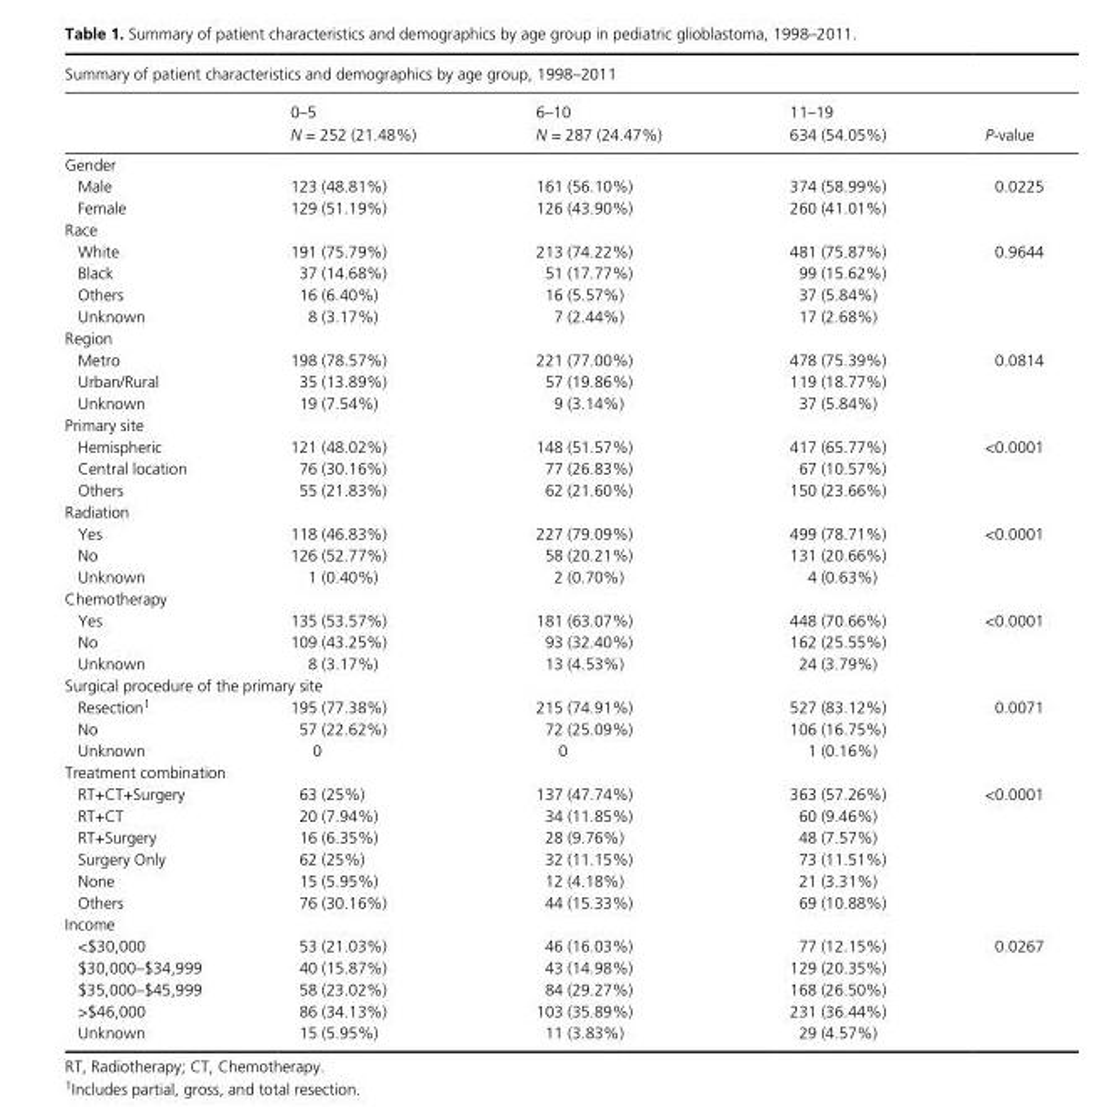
<table><thead><tr><td colspan="5">Summary of patient characteristics and demographics by age group, 1998–2011</td></tr><tr><td></td><td>0–5 N = 252 (21.48%)</td><td>6–10 N = 287 (24.47%)</td><td>11–19 634 (54.05%)</td><td>P- value</td></tr></thead><tbody><tr><td colspan="5">Gender</td></tr><tr><td>Male</td><td>123 (48.81%)</td><td>161 (56.10%)</td><td>374 (58.99%)</td><td rowspan="2">0.0225</td></tr><tr><td>Female</td><td>129 (51.19%)</td><td>126 (43.90%)</td><td>260 (41.01%)</td></tr><tr><td colspan="5">Race</td></tr><tr><td>White</td><td>191 (75.79%)</td><td>213 (74.22%)</td><td>481 (75.87%)</td><td rowspan="4">0.9644</td></tr><tr><td>Black</td><td>37 (14.68%)</td><td>51 (17.77%)</td><td>99 (15.62%)</td></tr><tr><td>Others</td><td>16 (6.40%)</td><td>16 (5.57%)</td><td>37 (5.84%)</td></tr><tr><td>Unknown</td><td>8 (3.17%)</td><td>7 (2.44%)</td><td>17 (2.68%)</td></tr><tr><td colspan="5">Region</td></tr><tr><td>Metro</td><td>198 (78.57%)</td><td>221 (77.00%)</td><td>478 (75.39%)</td><td rowspan="3">0.0814</td></tr><tr><td>Urban/Rural</td><td>35 (13.89%)</td><td>57 (19.86%)</td><td>119 (18.77%)</td></tr><tr><td>Unknown</td><td>19 (7.54%)</td><td>9 (3.14%)</td><td>37 (5.84%)</td></tr><tr><td colspan="5">Primary site</td></tr><tr><td>Hemispheric</td><td>121 (48.02%)</td><td>148 (51.57%)</td><td>417 (65.77%)</td><td rowspan="3">&lt;0.0001</td></tr><tr><td>Central location</td><td>76 (30.16%)</td><td>77 (26.83%)</td><td>67 (10.57%)</td></tr><tr><td>Others</td><td>55 (21.83%)</td><td>62 (21.60%)</td><td>150 (23.66%)</td></tr><tr><td colspan="5">Radiation</td></tr><tr><td>Yes</td><td>118 (46.83%)</td><td>227 (79.09%)</td><td>499 (78.71%)</td><td rowspan="3">&lt;0.0001</td></tr><tr><td>No</td><td>126 (52.77%)</td><td>58 (20.21%)</td><td>131 (20.66%)</td></tr><tr><td>Unknown</td><td>1 (0.40%)</td><td>2 (0.70%)</td><td>4 (0.63%)</td></tr><tr><td colspan="5">Chemotherapy</td></tr><tr><td>Yes</td><td>135 (53.57%)</td><td>181 (63.07%)</td><td>448 (70.66%)</td><td rowspan="3">&lt;0.0001</td></tr><tr><td>No</td><td>109 (43.25%)</td><td>93 (32.40%)</td><td>162 (25.55%)</td></tr><tr><td>Unknown</td><td>8 (3.17%)</td><td>13 (4.53%)</td><td>24 (3.79%)</td></tr><tr><td colspan="5">Surgical procedure of the primary site</td></tr><tr><td>Resection1</td><td>195 (77.38%)</td><td>215 (74.91%)</td><td>527 (83.12%)</td><td rowspan="3">0.0071</td></tr><tr><td>No</td><td>57 (22.62%)</td><td>72 (25.09%)</td><td>106 (16.75%)</td></tr><tr><td>Unknown</td><td>0</td><td>0</td><td>1 (0.16%)</td></tr><tr><td colspan="5">Treatment combination</td></tr><tr><td>RT+CT+Surgery</td><td>63 (25%)</td><td>137 (47.74%)</td><td>363 (57.26%)</td><td rowspan="6">&lt;0.0001</td></tr><tr><td>RT+CT</td><td>20 (7.94%)</td><td>34 (11.85%)</td><td>60 (9.46%)</td></tr><tr><td>RT+Surgery</td><td>16 (6.35%)</td><td>28 (9.76%)</td><td>48 (7.57%)</td></tr><tr><td>Surgery Only</td><td>62 (25%)</td><td>32 (11.15%)</td><td>73 (11.51%)</td></tr><tr><td>None</td><td>15 (5.95%)</td><td>12 (4.18%)</td><td>21 (3.31%)</td></tr><tr><td>Others</td><td>76 (30.16%)</td><td>44 (15.33%)</td><td>69 (10.88%)</td></tr><tr><td colspan="5">Income</td></tr><tr><td>&lt;$30,000</td><td>53 (21.03%)</td><td>46 (16.03%)</td><td>77 (12.15%)</td><td rowspan="5">0.0267</td></tr><tr><td>$30,000–$34,999</td><td>40 (15.87%)</td><td>43 (14.98%)</td><td>129 (20.35%)</td></tr><tr><td>$35,000–$45,999</td><td>58 (23.02%)</td><td>84 (29.27%)</td><td>168 (26.50%)</td></tr><tr><td>&gt;$46,000</td><td>86 (34.13%)</td><td>103 (35.89%)</td><td>231 (36.44%)</td></tr><tr><td>Unknown</td><td>15 (5.95%)</td><td>11 (3.83%)</td><td>29 (4.57%)</td></tr></tbody></table>